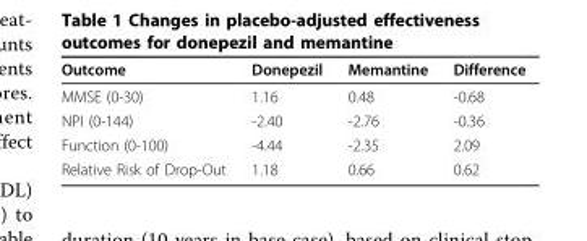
<table><thead><tr><td>Outcome</td><td>Donepezil</td><td>Memantine</td><td>Difference</td></tr></thead><tbody><tr><td>MMSE (0-30)</td><td>1.16</td><td>0.48</td><td>-0.68</td></tr><tr><td>NPI (0-144)</td><td>-2.40</td><td>-2.76</td><td>-0.36</td></tr><tr><td>Function (0-100)</td><td>-4.44</td><td>-2.35</td><td>2.09</td></tr><tr><td>Relative Risk of Drop-Out</td><td>1.18</td><td>0.66</td><td>0.62</td></tr></tbody></table>